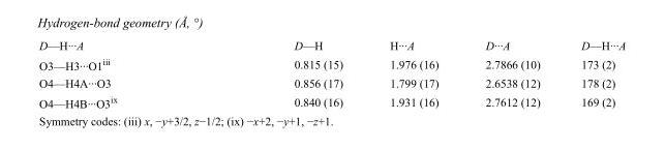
<table><tbody><tr><td>D—H···A</td><td>D—H</td><td>H···A</td><td>D···A</td><td>D—H···A</td></tr><tr><td>O3—H3···O1<sup>iii</sup></td><td>0.815 (15)</td><td>1.976 (16)</td><td>2.7866 (10)</td><td>173 (2)</td></tr><tr><td>O4—H4A···O3</td><td>0.856 (17)</td><td>1.799 (17)</td><td>2.6538 (12)</td><td>178 (2)</td></tr><tr><td>O4—H4B···O3<sup>ix</sup></td><td>0.840 (16)</td><td>1.931 (16)</td><td>2.7612 (12)</td><td>169 (2)</td></tr></tbody></table>